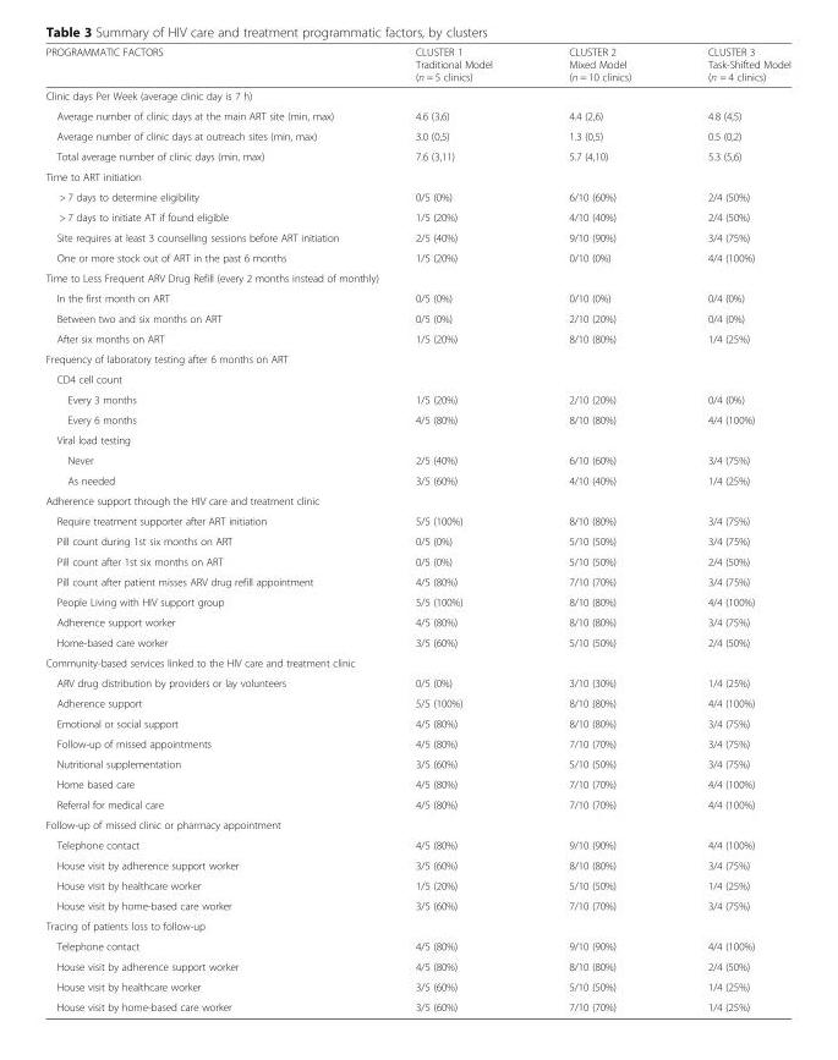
<table><thead><tr><td>PROGRAMMATIC FACTORS</td><td>CLUSTER 1 Traditional Model (n = 5 clinics)</td><td>CLUSTER 2 Mixed Model (n = 10 clinics)</td><td>CLUSTER 3 Task-Shifted Model (n = 4 clinics)</td></tr></thead><tbody><tr><td colspan="4">Clinic days Per Week (average clinic day is 7 h)</td></tr><tr><td>Average number of clinic days at the main ART site (min, max)</td><td>4.6 (3,6)</td><td>4.4 (2,6)</td><td>4.8 (4,5)</td></tr><tr><td>Average number of clinic days at outreach sites (min, max)</td><td>3.0 (0,5)</td><td>1.3 (0,5)</td><td>0.5 (0,2)</td></tr><tr><td>Total average number of clinic days (min, max)</td><td>7.6 (3,11)</td><td>5.7 (4,10)</td><td>5.3 (5,6)</td></tr><tr><td colspan="4">Time to ART initiation</td></tr><tr><td>&gt; 7 days to determine eligibility</td><td>0/5 (0%)</td><td>6/10 (60%)</td><td>2/4 (50%)</td></tr><tr><td>&gt; 7 days to initiate AT if found eligible</td><td>1/5 (20%)</td><td>4/10 (40%)</td><td>2/4 (50%)</td></tr><tr><td>Site requires at least 3 counselling sessions before ART initiation</td><td>2/5 (40%)</td><td>9/10 (90%)</td><td>3/4 (75%)</td></tr><tr><td>One or more stock out of ART in the past 6 months</td><td>1/5 (20%)</td><td>0/10 (0%)</td><td>4/4 (100%)</td></tr><tr><td colspan="4">Time to Less Frequent ARV Drug Refill (every 2 months instead of monthly)</td></tr><tr><td>In the first month on ART</td><td>0/5 (0%)</td><td>0/10 (0%)</td><td>0/4 (0%)</td></tr><tr><td>Between two and six months on ART</td><td>0/5 (0%)</td><td>2/10 (20%)</td><td>0/4 (0%)</td></tr><tr><td>After six months on ART</td><td>1/5 (20%)</td><td>8/10 (80%)</td><td>1/4 (25%)</td></tr><tr><td colspan="4">Frequency of laboratory testing after 6 months on ART</td></tr><tr><td colspan="4">CD4 cell count</td></tr><tr><td>Every 3 months</td><td>1/5 (20%)</td><td>2/10 (20%)</td><td>0/4 (0%)</td></tr><tr><td>Every 6 months</td><td>4/5 (80%)</td><td>8/10 (80%)</td><td>4/4 (100%)</td></tr><tr><td colspan="4">Viral load testing</td></tr><tr><td>Never</td><td>2/5 (40%)</td><td>6/10 (60%)</td><td>3/4 (75%)</td></tr><tr><td>As needed</td><td>3/5 (60%)</td><td>4/10 (40%)</td><td>1/4 (25%)</td></tr><tr><td colspan="4">Adherence support through the HIV care and treatment clinic</td></tr><tr><td>Require treatment supporter after ART initiation</td><td>5/5 (100%)</td><td>8/10 (80%)</td><td>3/4 (75%)</td></tr><tr><td>Pill count during 1st six months on ART</td><td>0/5 (0%)</td><td>5/10 (50%)</td><td>3/4 (75%)</td></tr><tr><td>Pill count after 1st six months on ART</td><td>0/5 (0%)</td><td>5/10 (50%)</td><td>2/4 (50%)</td></tr><tr><td>Pill count after patient misses ARV drug refill appointment</td><td>4/5 (80%)</td><td>7/10 (70%)</td><td>3/4 (75%)</td></tr><tr><td>People Living with HIV support group</td><td>5/5 (100%)</td><td>8/10 (80%)</td><td>4/4 (100%)</td></tr><tr><td>Adherence support worker</td><td>4/5 (80%)</td><td>8/10 (80%)</td><td>3/4 (75%)</td></tr><tr><td>Home-based care worker</td><td>3/5 (60%)</td><td>5/10 (50%)</td><td>2/4 (50%)</td></tr><tr><td colspan="4">Community-based services linked to the HIV care and treatment clinic</td></tr><tr><td>ARV drug distribution by providers or lay volunteers</td><td>0/5 (0%)</td><td>3/10 (30%)</td><td>1/4 (25%)</td></tr><tr><td>Adherence support</td><td>5/5 (100%)</td><td>8/10 (80%)</td><td>4/4 (100%)</td></tr><tr><td>Emotional or social support</td><td>4/5 (80%)</td><td>8/10 (80%)</td><td>3/4 (75%)</td></tr><tr><td>Follow-up of missed appointments</td><td>4/5 (80%)</td><td>7/10 (70%)</td><td>3/4 (75%)</td></tr><tr><td>Nutritional supplementation</td><td>3/5 (60%)</td><td>5/10 (50%)</td><td>3/4 (75%)</td></tr><tr><td>Home based care</td><td>4/5 (80%)</td><td>7/10 (70%)</td><td>4/4 (100%)</td></tr><tr><td>Referral for medical care</td><td>4/5 (80%)</td><td>7/10 (70%)</td><td>4/4 (100%)</td></tr><tr><td colspan="4">Follow-up of missed clinic or pharmacy appointment</td></tr><tr><td>Telephone contact</td><td>4/5 (80%)</td><td>9/10 (90%)</td><td>4/4 (100%)</td></tr><tr><td>House visit by adherence support worker</td><td>3/5 (60%)</td><td>8/10 (80%)</td><td>3/4 (75%)</td></tr><tr><td>House visit by healthcare worker</td><td>1/5 (20%)</td><td>5/10 (50%)</td><td>1/4 (25%)</td></tr><tr><td>House visit by home-based care worker</td><td>3/5 (60%)</td><td>7/10 (70%)</td><td>3/4 (75%)</td></tr><tr><td colspan="4">Tracing of patients loss to follow-up</td></tr><tr><td>Telephone contact</td><td>4/5 (80%)</td><td>9/10 (90%)</td><td>4/4 (100%)</td></tr><tr><td>House visit by adherence support worker</td><td>4/5 (80%)</td><td>8/10 (80%)</td><td>2/4 (50%)</td></tr><tr><td>House visit by healthcare worker</td><td>3/5 (60%)</td><td>5/10 (50%)</td><td>1/4 (25%)</td></tr><tr><td>House visit by home-based care worker</td><td>3/5 (60%)</td><td>7/10 (70%)</td><td>1/4 (25%)</td></tr></tbody></table>